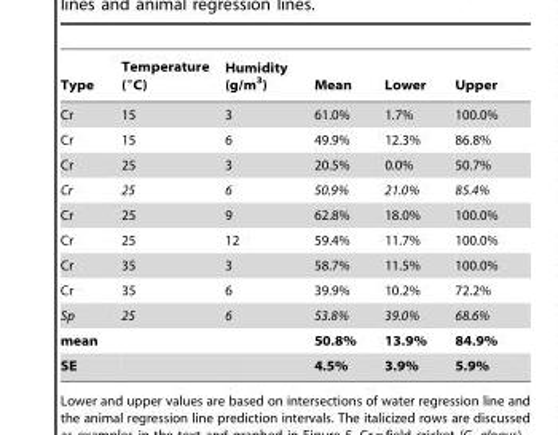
<table><thead><tr><td>Type</td><td>Temperature (°C)</td><td>Humidity (g/m<sup>3</sup>)</td><td>Mean</td><td>Lower</td><td>Upper</td></tr></thead><tbody><tr><td>Cr</td><td>15</td><td>3</td><td>61.0%</td><td>1.7%</td><td>100.0%</td></tr><tr><td>Cr</td><td>15</td><td>6</td><td>49.9%</td><td>12.3%</td><td>86.8%</td></tr><tr><td>Cr</td><td>25</td><td>3</td><td>20.5%</td><td>0.0%</td><td>50.7%</td></tr><tr><td>Cr</td><td>25</td><td>6</td><td>50.9%</td><td>21.0%</td><td>85.4%</td></tr><tr><td>Cr</td><td>25</td><td>9</td><td>62.8%</td><td>18.0%</td><td>100.0%</td></tr><tr><td>Cr</td><td>25</td><td>12</td><td>59.4%</td><td>11.7%</td><td>100.0%</td></tr><tr><td>Cr</td><td>35</td><td>3</td><td>58.7%</td><td>11.5%</td><td>100.0%</td></tr><tr><td>Cr</td><td>35</td><td>6</td><td>39.9%</td><td>10.2%</td><td>72.2%</td></tr><tr><td>Sp</td><td>25</td><td>6</td><td>53.8%</td><td>39.0%</td><td>68.6%</td></tr><tr><td>mean</td><td></td><td></td><td>50.8%</td><td>13.9%</td><td>84.9%</td></tr><tr><td>SE</td><td></td><td></td><td>4.5%</td><td>3.9%</td><td>5.9%</td></tr></tbody></table>